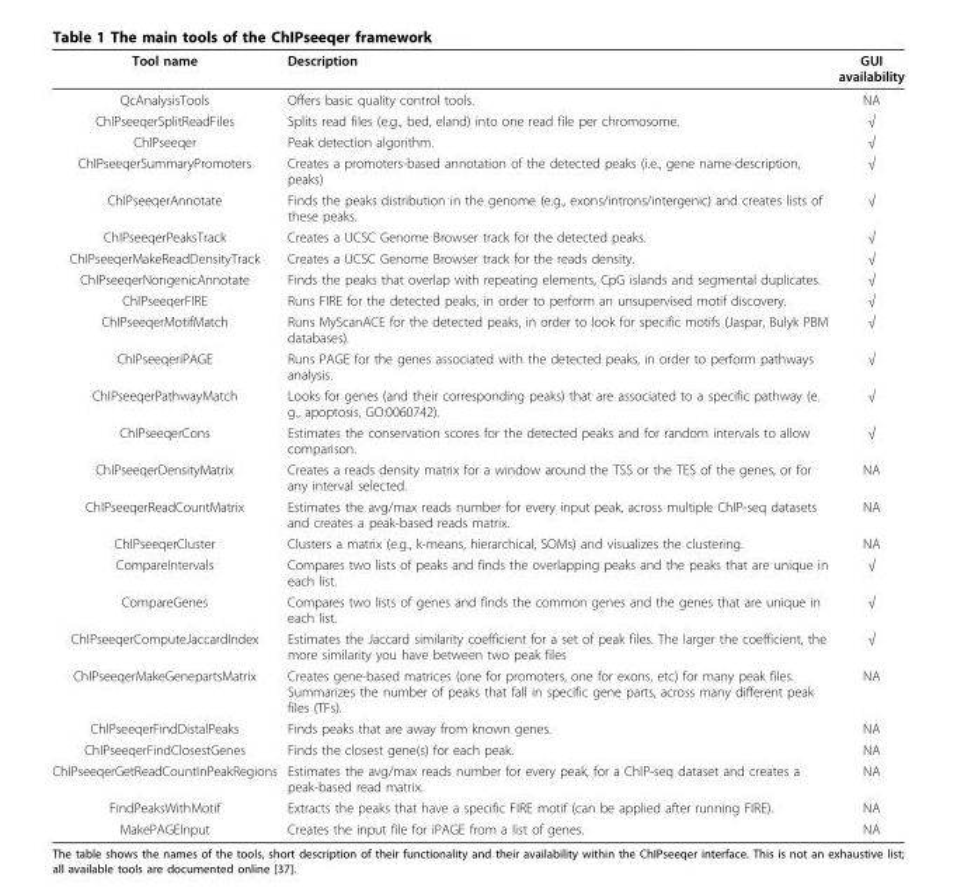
<table><thead><tr><td>Tool name</td><td>Description</td><td>GUI availability</td></tr></thead><tbody><tr><td>QcAnalysisTools</td><td>Offers basic quality control tools.</td><td>NA</td></tr><tr><td>ChIPseeqerSplitReadFiles</td><td>Splits read files (e.g., bed, eland) into one read file per chromosome.</td><td>√</td></tr><tr><td>ChIPseeqer</td><td>Peak detection algorithm.</td><td>√</td></tr><tr><td>ChIPseeqerSummaryPromoters</td><td>Creates a promoters-based annotation of the detected peaks (i.e., gene name-description, peaks)</td><td>√</td></tr><tr><td>ChIPseeqerAnnotate</td><td>Finds the peaks distribution in the genome (e.g., exons/introns/intergenic) and creates lists of these peaks.</td><td>√</td></tr><tr><td>ChIPseeqerPeaksTrack</td><td>Creates a UCSC Genome Browser track for the detected peaks.</td><td>√</td></tr><tr><td>ChIPseeqerMakeReadDensityTrack</td><td>Creates a UCSC Genome Browser track for the reads density.</td><td>√</td></tr><tr><td>ChIPseeqerNongenicAnnotate</td><td>Finds the peaks that overlap with repeating elements, CpG islands and segmental duplicates.</td><td>√</td></tr><tr><td>ChIPseeqerFIRE</td><td>Runs FIRE for the detected peaks, in order to perform an unsupervised motif discovery.</td><td>√</td></tr><tr><td>ChIPseeqerMotifMatch</td><td>Runs MyScanACE for the detected peaks, in order to look for specific motifs (Jaspar, Bulyk PBM databases).</td><td>√</td></tr><tr><td>ChIPseeqeriPAGE</td><td>Runs PAGE for the genes associated with the detected peaks, in order to perform pathways analysis.</td><td>√</td></tr><tr><td>ChIPseeqerPathwayMatch</td><td>Looks for genes (and their corresponding peaks) that are associated to a specific pathway (e. g., apoptosis, GO:0060742).</td><td>√</td></tr><tr><td>ChIPseeqerCons</td><td>Estimates the conservation scores for the detected peaks and for random intervals to allow comparison.</td><td>√</td></tr><tr><td>ChIPseeqerDensityMatrix</td><td>Creates a reads density matrix for a window around the TSS or the TES of the genes, or for any interval selected.</td><td>NA</td></tr><tr><td>ChIPseeqerReadCountMatrix</td><td>Estimates the avg/max reads number for every input peak, across multiple ChIP-seq datasets and creates a peak-based reads matrix.</td><td>NA</td></tr><tr><td>ChIPseeqerCluster</td><td>Clusters a matrix (e.g., k-means, hierarchical, SOMs) and visualizes the clustering.</td><td>NA</td></tr><tr><td>CompareIntervals</td><td>Compares two lists of peaks and finds the overlapping peaks and the peaks that are unique in each list.</td><td>√</td></tr><tr><td>CompareGenes</td><td>Compares two lists of genes and finds the common genes and the genes that are unique in each list.</td><td>√</td></tr><tr><td>ChIPseeqerComputeJaccardIndex</td><td>Estimates the Jaccard similarity coefficient for a set of peak files. The larger the coefficient, the more similarity you have between two peak files</td><td>√</td></tr><tr><td>ChIPseeqerMakeGenepartsMatrix</td><td>Creates gene-based matrices (one for promoters, one for exons, etc) for many peak files. Summarizes the number of peaks that fall in specific gene parts, across many different peak files (TFs).</td><td>NA</td></tr><tr><td>ChIPseeqerFindDistalPeaks</td><td>Finds peaks that are away from known genes.</td><td>NA</td></tr><tr><td>ChIPseeqerFindClosestGenes</td><td>Finds the closest gene(s) for each peak.</td><td>NA</td></tr><tr><td>ChIPseeqerGetReadCountInPeakRegions</td><td>Estimates the avg/max reads number for every peak, for a ChIP-seq dataset and creates a peak-based read matrix.</td><td>NA</td></tr><tr><td>FindPeaksWithMotif</td><td>Extracts the peaks that have a specific FIRE motif (can be applied after running FIRE).</td><td>NA</td></tr><tr><td>MakePAGEInput</td><td>Creates the input file for iPAGE from a list of genes.</td><td>NA</td></tr></tbody></table>